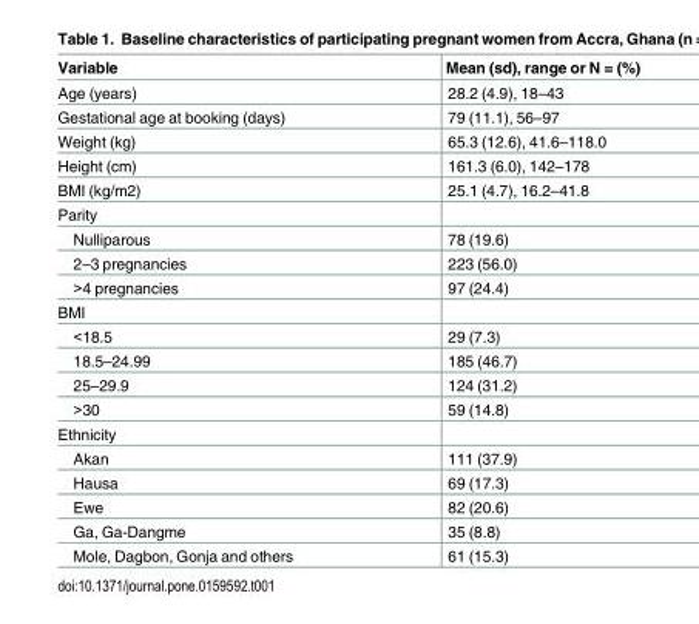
<table><thead><tr><td>Variable</td><td>Mean (sd), range or N = (%)</td></tr></thead><tbody><tr><td>Age (years)</td><td>28.2 (4.9), 18–43</td></tr><tr><td>Gestational age at booking (days)</td><td>79 (11.1), 56–97</td></tr><tr><td>Weight (kg)</td><td>65.3 (12.6), 41.6–118.0</td></tr><tr><td>Height (cm)</td><td>161.3 (6.0), 142–178</td></tr><tr><td>BMI (kg/m2)</td><td>25.1 (4.7), 16.2–41.8</td></tr><tr><td colspan="2">Parity</td></tr><tr><td>Nulliparous</td><td>78 (19.6)</td></tr><tr><td>2–3 pregnancies</td><td>223 (56.0)</td></tr><tr><td>&gt;4 pregnancies</td><td>97 (24.4)</td></tr><tr><td colspan="2">BMI</td></tr><tr><td>&lt;18.5</td><td>29 (7.3)</td></tr><tr><td>18.5–24.99</td><td>185 (46.7)</td></tr><tr><td>25–29.9</td><td>124 (31.2)</td></tr><tr><td>&gt;30</td><td>59 (14.8)</td></tr><tr><td colspan="2">Ethnicity</td></tr><tr><td>Akan</td><td>111 (37.9)</td></tr><tr><td>Hausa</td><td>69 (17.3)</td></tr><tr><td>Ewe</td><td>82 (20.6)</td></tr><tr><td>Ga, Ga-Dangme</td><td>35 (8.8)</td></tr><tr><td>Mole, Dagbon, Gonja and others</td><td>61 (15.3)</td></tr></tbody></table>